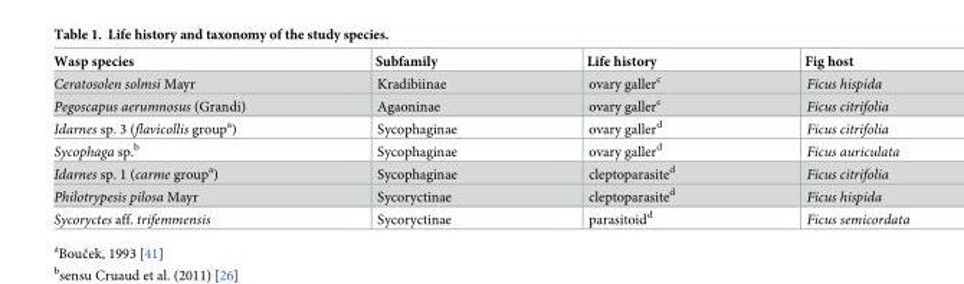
<table><thead><tr><td>Wasp species</td><td>Subfamily</td><td>Life history</td><td>Fig host</td></tr></thead><tbody><tr><td>Ceratosolen solmsi Mayr</td><td>Kradibiinae</td><td>ovary galler<sup>c</sup></td><td>Ficus hispida</td></tr><tr><td>Pegoscapus aerumnosus (Grandi)</td><td>Agaoninae</td><td>ovary galler<sup>c</sup></td><td>Ficus citrifolia</td></tr><tr><td>Idarnes sp. 3 (flavicollis group<sup>a</sup>)</td><td>Sycophaginae</td><td>ovary galler<sup>d</sup></td><td>Ficus citrifolia</td></tr><tr><td>Sycophaga sp.<sup>b</sup></td><td>Sycophaginae</td><td>ovary galler<sup>d</sup></td><td>Ficus auriculata</td></tr><tr><td>Idarnes sp. 1 (carme group<sup>a</sup>)</td><td>Sycophaginae</td><td>cleptoparasite<sup>d</sup></td><td>Ficus citrifolia</td></tr><tr><td>Philotrypesis pilosa Mayr</td><td>Sycoryctinae</td><td>cleptoparasite<sup>d</sup></td><td>Ficus hispida</td></tr><tr><td>Sycoryctes aff. trifemmensis</td><td>Sycoryctinae</td><td>parasitoid<sup>d</sup></td><td>Ficus semicordata</td></tr></tbody></table>